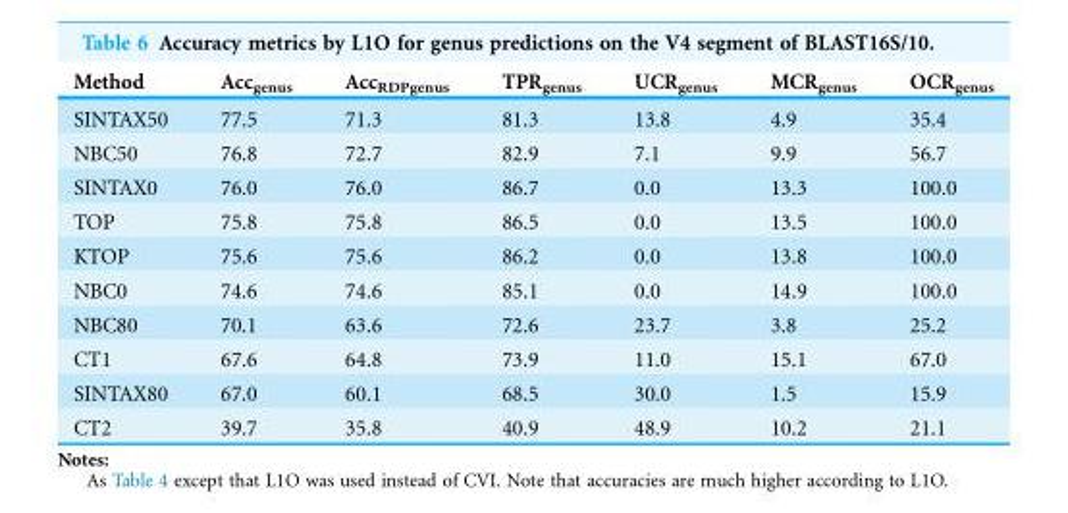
<table><thead><tr><td>Method</td><td>Acc<sub>genus</sub></td><td>Acc<sub>RDPgenus</sub></td><td>TPR<sub>genus</sub></td><td>UCR<sub>genus</sub></td><td>MCR<sub>genus</sub></td><td>OCR<sub>genus</sub></td></tr></thead><tbody><tr><td>SINTAX50</td><td>77.5</td><td>71.3</td><td>81.3</td><td>13.8</td><td>4.9</td><td>35.4</td></tr><tr><td>NBC50</td><td>76.8</td><td>72.7</td><td>82.9</td><td>7.1</td><td>9.9</td><td>56.7</td></tr><tr><td>SINTAX0</td><td>76.0</td><td>76.0</td><td>86.7</td><td>0.0</td><td>13.3</td><td>100.0</td></tr><tr><td>TOP</td><td>75.8</td><td>75.8</td><td>86.5</td><td>0.0</td><td>13.5</td><td>100.0</td></tr><tr><td>KTOP</td><td>75.6</td><td>75.6</td><td>86.2</td><td>0.0</td><td>13.8</td><td>100.0</td></tr><tr><td>NBC0</td><td>74.6</td><td>74.6</td><td>85.1</td><td>0.0</td><td>14.9</td><td>100.0</td></tr><tr><td>NBC80</td><td>70.1</td><td>63.6</td><td>72.6</td><td>23.7</td><td>3.8</td><td>25.2</td></tr><tr><td>CT1</td><td>67.6</td><td>64.8</td><td>73.9</td><td>11.0</td><td>15.1</td><td>67.0</td></tr><tr><td>SINTAX80</td><td>67.0</td><td>60.1</td><td>68.5</td><td>30.0</td><td>1.5</td><td>15.9</td></tr><tr><td>CT2</td><td>39.7</td><td>35.8</td><td>40.9</td><td>48.9</td><td>10.2</td><td>21.1</td></tr></tbody></table>